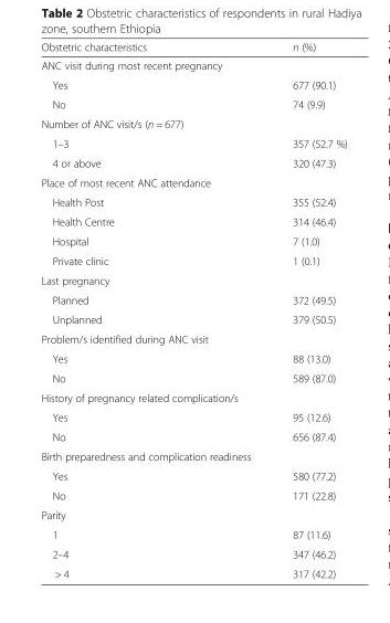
<table><thead><tr><td>Obstetric characteristics</td><td>n (%)</td></tr></thead><tbody><tr><td colspan="2">ANC visit during most recent pregnancy</td></tr><tr><td>Yes</td><td>677 (90.1)</td></tr><tr><td>No</td><td>74 (9.9)</td></tr><tr><td colspan="2">Number of ANC visit/s (n = 677)</td></tr><tr><td>1–3</td><td>357 (52.7 %)</td></tr><tr><td>4 or above</td><td>320 (47.3)</td></tr><tr><td colspan="2">Place of most recent ANC attendance</td></tr><tr><td>Health Post</td><td>355 (52.4)</td></tr><tr><td>Health Centre</td><td>314 (46.4)</td></tr><tr><td>Hospital</td><td>7 (1.0)</td></tr><tr><td>Private clinic</td><td>1 (0.1)</td></tr><tr><td colspan="2">Last pregnancy</td></tr><tr><td>Planned</td><td>372 (49.5)</td></tr><tr><td>Unplanned</td><td>379 (50.5)</td></tr><tr><td colspan="2">Problem/s identified during ANC visit</td></tr><tr><td>Yes</td><td>88 (13.0)</td></tr><tr><td>No</td><td>589 (87.0)</td></tr><tr><td colspan="2">History of pregnancy related complication/s</td></tr><tr><td>Yes</td><td>95 (12.6)</td></tr><tr><td>No</td><td>656 (87.4)</td></tr><tr><td colspan="2">Birth preparedness and complication readiness</td></tr><tr><td>Yes</td><td>580 (77.2)</td></tr><tr><td>No</td><td>171 (22.8)</td></tr><tr><td colspan="2">Parity</td></tr><tr><td>1</td><td>87 (11.6)</td></tr><tr><td>2–4</td><td>347 (46.2)</td></tr><tr><td>&gt; 4</td><td>317 (42.2)</td></tr></tbody></table>